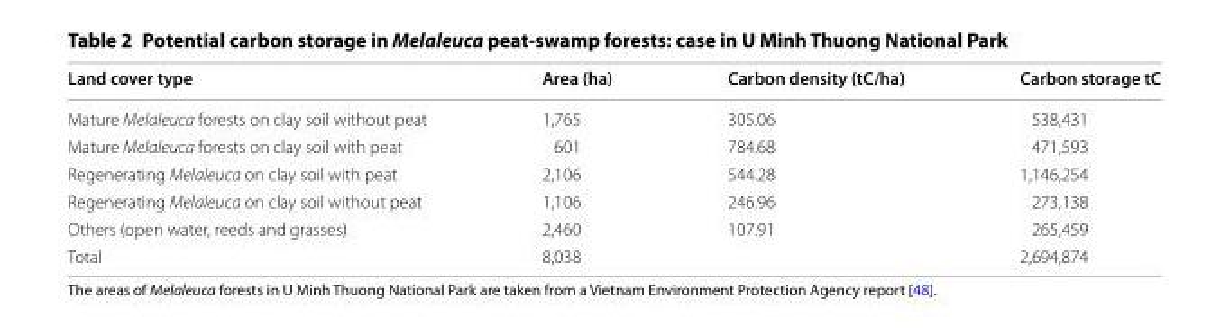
<table><thead><tr><td>Land cover type</td><td>Area (ha)</td><td>Carbon density (tC/ha)</td><td>Carbon storage tC</td></tr></thead><tbody><tr><td>Mature Melaleuca forests on clay soil without peat</td><td>1,765</td><td>305.06</td><td>538,431</td></tr><tr><td>Mature Melaleuca forests on clay soil with peat</td><td>601</td><td>784.68</td><td>471,593</td></tr><tr><td>Regenerating Melaleuca on clay soil with peat</td><td>2,106</td><td>544.28</td><td>1,146,254</td></tr><tr><td>Regenerating Melaleuca on clay soil without peat</td><td>1,106</td><td>246.96</td><td>273,138</td></tr><tr><td>Others (open water, reeds and grasses)</td><td>2,460</td><td>107.91</td><td>265,459</td></tr><tr><td>Total</td><td>8,038</td><td></td><td>2,694,874</td></tr></tbody></table>